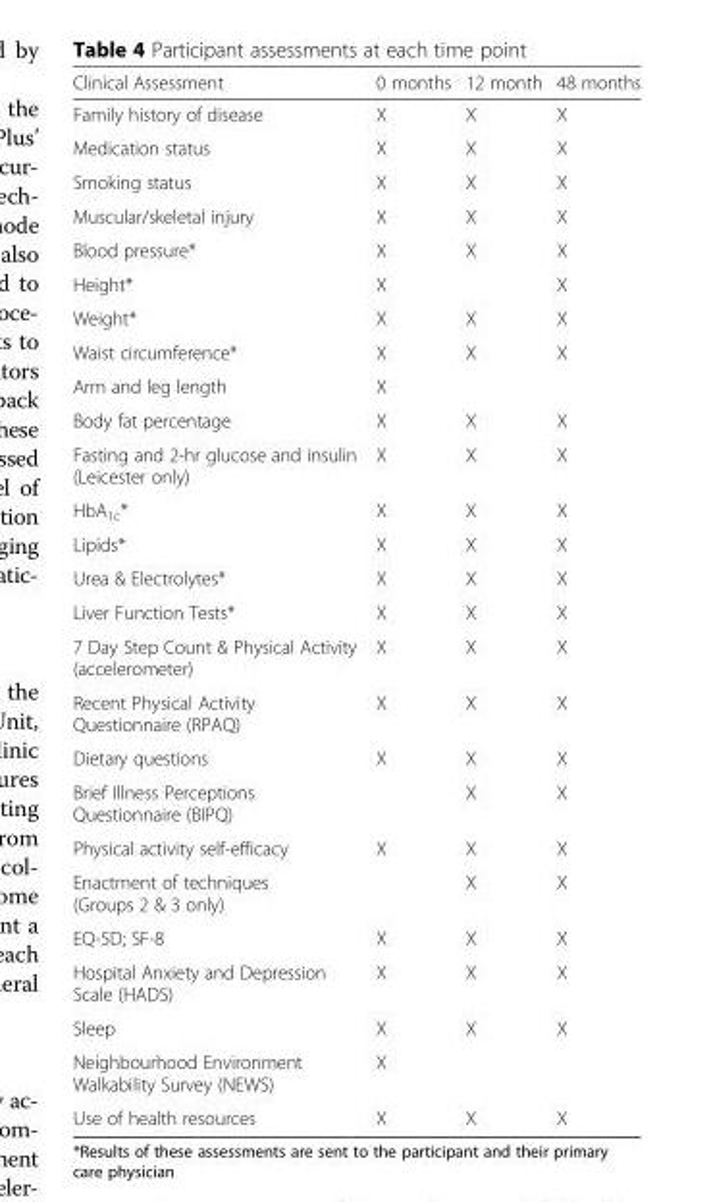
<table><thead><tr><td>Clinical Assessment</td><td>0 months</td><td>12 month</td><td>48 months</td></tr></thead><tbody><tr><td>Family history of disease</td><td>X</td><td>X</td><td>X</td></tr><tr><td>Medication status</td><td>X</td><td>X</td><td>X</td></tr><tr><td>Smoking status</td><td>X</td><td>X</td><td>X</td></tr><tr><td>Muscular/skeletal injury</td><td>X</td><td>X</td><td>X</td></tr><tr><td>Blood pressure*</td><td>X</td><td>X</td><td>X</td></tr><tr><td>Height*</td><td>X</td><td></td><td>X</td></tr><tr><td>Weight*</td><td>X</td><td>X</td><td>X</td></tr><tr><td>Waist circumference*</td><td>X</td><td>X</td><td>X</td></tr><tr><td>Arm and leg length</td><td>X</td><td></td><td></td></tr><tr><td>Body fat percentage</td><td>X</td><td>X</td><td>X</td></tr><tr><td>Fasting and 2-hr glucose and insulin (Leicester only)</td><td>X</td><td>X</td><td>X</td></tr><tr><td>HbA<sub>1c</sub>*</td><td>X</td><td>X</td><td>X</td></tr><tr><td>Lipids*</td><td>X</td><td>X</td><td>X</td></tr><tr><td>Urea &amp; Electrolytes*</td><td>X</td><td>X</td><td>X</td></tr><tr><td>Liver Function Tests*</td><td>X</td><td>X</td><td>X</td></tr><tr><td>7 Day Step Count &amp; Physical Activity (accelerometer)</td><td>X</td><td>X</td><td>X</td></tr><tr><td>Recent Physical Activity Questionnaire (RPAQ)</td><td>X</td><td>X</td><td>X</td></tr><tr><td>Dietary questions</td><td>X</td><td>X</td><td>X</td></tr><tr><td>Brief Illness Perceptions Questionnaire (BIPQ)</td><td></td><td>X</td><td>X</td></tr><tr><td>Physical activity self-efficacy</td><td>X</td><td>X</td><td>X</td></tr><tr><td>Enactment of techniques (Groups 2 &amp; 3 only)</td><td></td><td>X</td><td>X</td></tr><tr><td>EQ-5D; SF-8</td><td>X</td><td>X</td><td>X</td></tr><tr><td>Hospital Anxiety and Depression Scale (HADS)</td><td>X</td><td>X</td><td>X</td></tr><tr><td>Sleep</td><td>X</td><td>X</td><td>X</td></tr><tr><td>Neighbourhood Environment Walkability Survey (NEWS)</td><td>X</td><td></td><td></td></tr><tr><td>Use of health resources</td><td>X</td><td>X</td><td>X</td></tr></tbody></table>